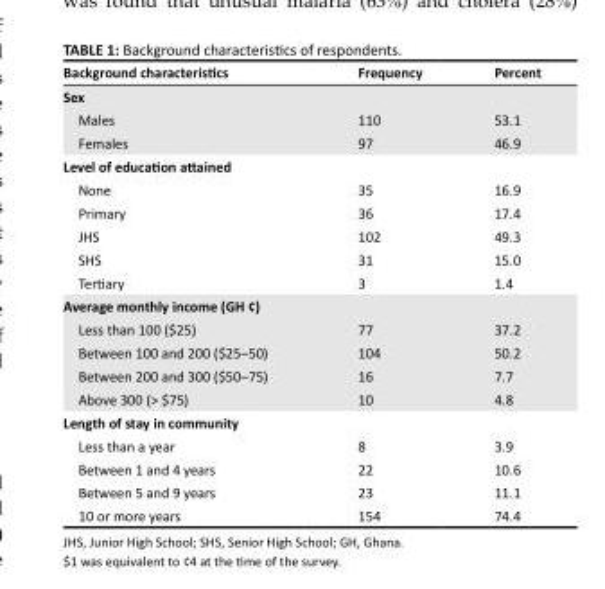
<table><thead><tr><td>Background characteristics</td><td>Frequency</td><td>Percent</td></tr></thead><tbody><tr><td colspan="3">Sex</td></tr><tr><td>Males</td><td>110</td><td>53.1</td></tr><tr><td>Females</td><td>97</td><td>46.9</td></tr><tr><td colspan="3">Level of education attained</td></tr><tr><td>None</td><td>35</td><td>16.9</td></tr><tr><td>Primary</td><td>36</td><td>17.4</td></tr><tr><td>JHS</td><td>102</td><td>49.3</td></tr><tr><td>SHS</td><td>31</td><td>15.0</td></tr><tr><td>Tertiary</td><td>3</td><td>1.4</td></tr><tr><td colspan="3">Average monthly income (GH ¢)</td></tr><tr><td>Less than 100 ($25)</td><td>77</td><td>37.2</td></tr><tr><td>Between 100 and 200 ($25–50)</td><td>104</td><td>50.2</td></tr><tr><td>Between 200 and 300 ($50–75)</td><td>16</td><td>7.7</td></tr><tr><td>Above 300 (&gt; $75)</td><td>10</td><td>4.8</td></tr><tr><td colspan="3">Length of stay in community</td></tr><tr><td>Less than a year</td><td>8</td><td>3.9</td></tr><tr><td>Between 1 and 4 years</td><td>22</td><td>10.6</td></tr><tr><td>Between 5 and 9 years</td><td>23</td><td>11.1</td></tr><tr><td>10 or more years</td><td>154</td><td>74.4</td></tr></tbody></table>